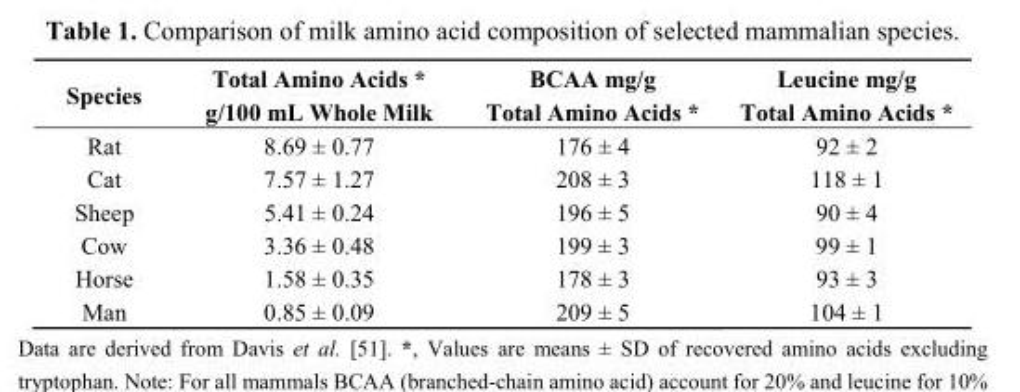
<table><thead><tr><td>Species</td><td>Total Amino Acids * g/100 mL Whole Milk</td><td>BCAA mg/g Total Amino Acids *</td><td>Leucine mg/g Total Amino Acids *</td></tr></thead><tbody><tr><td>Rat</td><td>8.69 ± 0.77</td><td>176 ± 4</td><td>92 ± 2</td></tr><tr><td>Cat</td><td>7.57 ± 1.27</td><td>208 ± 3</td><td>118 ± 1</td></tr><tr><td>Sheep</td><td>5.41 ± 0.24</td><td>196 ± 5</td><td>90 ± 4</td></tr><tr><td>Cow</td><td>3.36 ± 0.48</td><td>199 ± 3</td><td>99 ± 1</td></tr><tr><td>Horse</td><td>1.58 ± 0.35</td><td>178 ± 3</td><td>93 ± 3</td></tr><tr><td>Man</td><td>0.85 ± 0.09</td><td>209 ± 5</td><td>104 ± 1</td></tr></tbody></table>